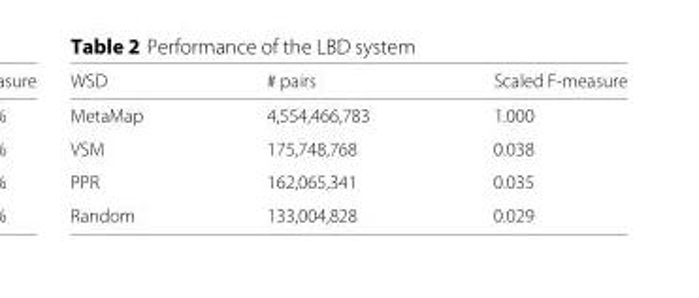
<table><thead><tr><td>WSD</td><td># pairs</td><td>Scaled F-measure</td></tr></thead><tbody><tr><td>MetaMap</td><td>4,554,466,783</td><td>1.000</td></tr><tr><td>VSM</td><td>175,748,768</td><td>0.038</td></tr><tr><td>PPR</td><td>162,065,341</td><td>0.035</td></tr><tr><td>Random</td><td>133,004,828</td><td>0.029</td></tr></tbody></table>